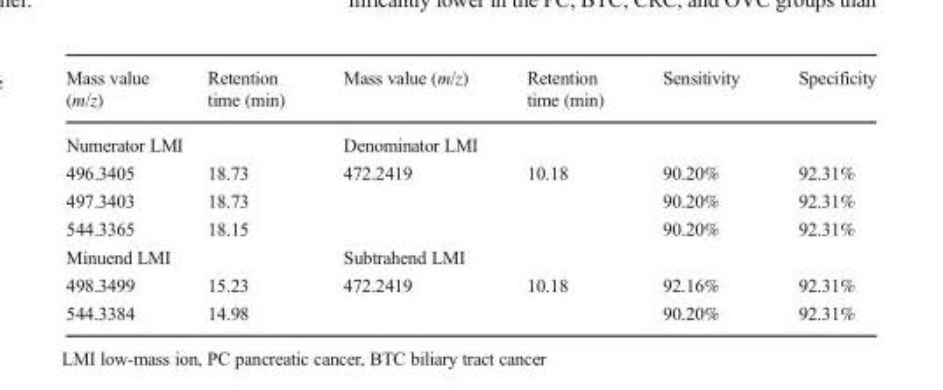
<table><thead><tr><td>Mass value (m/z)</td><td>Retention time (min)</td><td>Mass value (m/z)</td><td>Retention time (min)</td><td>Sensitivity</td><td>Specificity</td></tr></thead><tbody><tr><td colspan="2">Numerator LMI</td><td colspan="2">Denominator LMI</td><td></td><td></td></tr><tr><td>496.3405</td><td>18.73</td><td rowspan="3">472.2419</td><td rowspan="3">10.18</td><td>90.20%</td><td>92.31%</td></tr><tr><td>497.3403</td><td>18.73</td><td>90.20%</td><td>92.31%</td></tr><tr><td>544.3365</td><td>18.15</td><td>90.20%</td><td>92.31%</td></tr><tr><td colspan="2">Minuend LMI</td><td colspan="2">Subtrahend LMI</td><td></td><td></td></tr><tr><td>498.3499</td><td>15.23</td><td rowspan="2">472.2419</td><td rowspan="2">10.18</td><td>92.16%</td><td>92.31%</td></tr><tr><td>544.3384</td><td>14.98</td><td>90.20%</td><td>92.31%</td></tr></tbody></table>